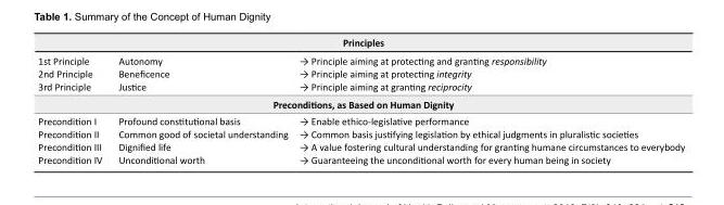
<table><tbody><tr><td colspan="3">Principles</td></tr><tr><td>1st Principle 2nd Principle 3rd Principle</td><td>Autonomy Beneficence Justice</td><td>→ Principle aiming at protecting and granting responsibility → Principle aiming at protecting integrity → Principle aiming at granting reciprocity</td></tr><tr><td colspan="3">Preconditions, as Based on Human Dignity</td></tr><tr><td>Precondition I Precondition II Precondition III Precondition IV</td><td>Profound constitutional basis Common good of societal understanding Dignified life Unconditional worth</td><td>→ Enable ethico-legislative performance → Common basis justifying legislation by ethical judgments in pluralistic societies → A value fostering cultural understanding for granting humane circumstances to everybody → Guaranteeing the unconditional worth for every human being in society</td></tr></tbody></table>